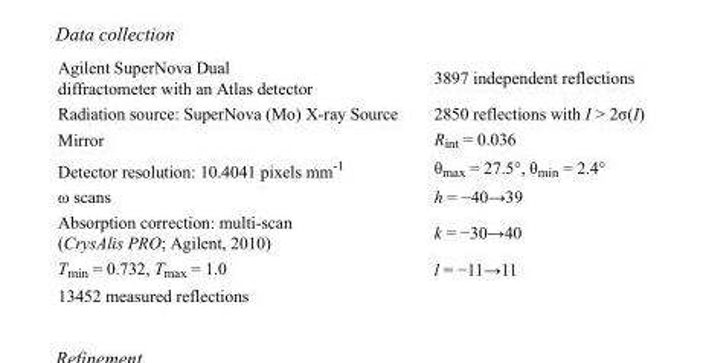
<table><tbody><tr><td>Agilent SuperNova Dual diffractometer with an Atlas detector</td><td>3897 independent reflections</td></tr><tr><td>Radiation source: SuperNova (Mo) X-ray Source</td><td>2850 reflections with I &gt; 2σ(I)</td></tr><tr><td>Mirror</td><td>R<sub>int</sub> = 0.036</td></tr><tr><td>Detector resolution: 10.4041 pixels mm<sup>-1</sup></td><td>θ<sub>max</sub> = 27.5°, θ<sub>min</sub> = 2.4°</td></tr><tr><td>ω scans</td><td>h = −40→39</td></tr><tr><td>Absorption correction: multi-scan (CrysAlis PRO; Agilent, 2010)</td><td>k = −30→40</td></tr><tr><td>T<sub>min</sub> = 0.732, T<sub>max</sub> = 1.0</td><td>l = −11→11</td></tr><tr><td>13452 measured reflections</td><td></td></tr></tbody></table>